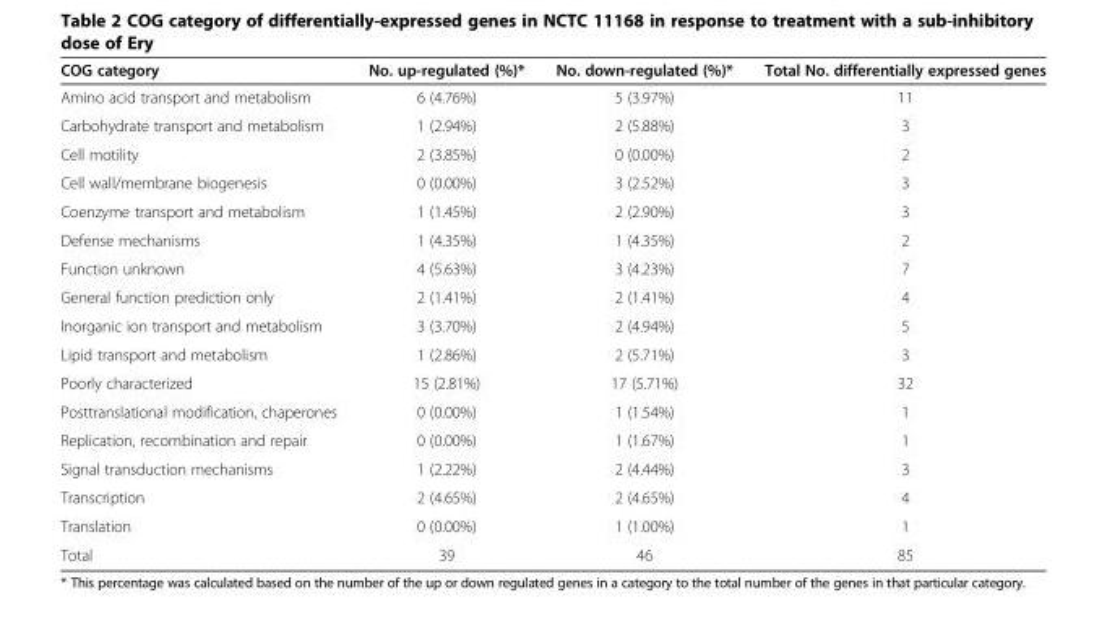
<table><thead><tr><td>COG category</td><td>No. up-regulated (%)*</td><td>No. down-regulated (%)*</td><td>Total No. differentially expressed genes</td></tr></thead><tbody><tr><td>Amino acid transport and metabolism</td><td>6 (4.76%)</td><td>5 (3.97%)</td><td>11</td></tr><tr><td>Carbohydrate transport and metabolism</td><td>1 (2.94%)</td><td>2 (5.88%)</td><td>3</td></tr><tr><td>Cell motility</td><td>2 (3.85%)</td><td>0 (0.00%)</td><td>2</td></tr><tr><td>Cell wall/membrane biogenesis</td><td>0 (0.00%)</td><td>3 (2.52%)</td><td>3</td></tr><tr><td>Coenzyme transport and metabolism</td><td>1 (1.45%)</td><td>2 (2.90%)</td><td>3</td></tr><tr><td>Defense mechanisms</td><td>1 (4.35%)</td><td>1 (4.35%)</td><td>2</td></tr><tr><td>Function unknown</td><td>4 (5.63%)</td><td>3 (4.23%)</td><td>7</td></tr><tr><td>General function prediction only</td><td>2 (1.41%)</td><td>2 (1.41%)</td><td>4</td></tr><tr><td>Inorganic ion transport and metabolism</td><td>3 (3.70%)</td><td>2 (4.94%)</td><td>5</td></tr><tr><td>Lipid transport and metabolism</td><td>1 (2.86%)</td><td>2 (5.71%)</td><td>3</td></tr><tr><td>Poorly characterized</td><td>15 (2.81%)</td><td>17 (5.71%)</td><td>32</td></tr><tr><td>Posttranslational modification, chaperones</td><td>0 (0.00%)</td><td>1 (1.54%)</td><td>1</td></tr><tr><td>Replication, recombination and repair</td><td>0 (0.00%)</td><td>1 (1.67%)</td><td>1</td></tr><tr><td>Signal transduction mechanisms</td><td>1 (2.22%)</td><td>2 (4.44%)</td><td>3</td></tr><tr><td>Transcription</td><td>2 (4.65%)</td><td>2 (4.65%)</td><td>4</td></tr><tr><td>Translation</td><td>0 (0.00%)</td><td>1 (1.00%)</td><td>1</td></tr><tr><td>Total</td><td>39</td><td>46</td><td>85</td></tr></tbody></table>